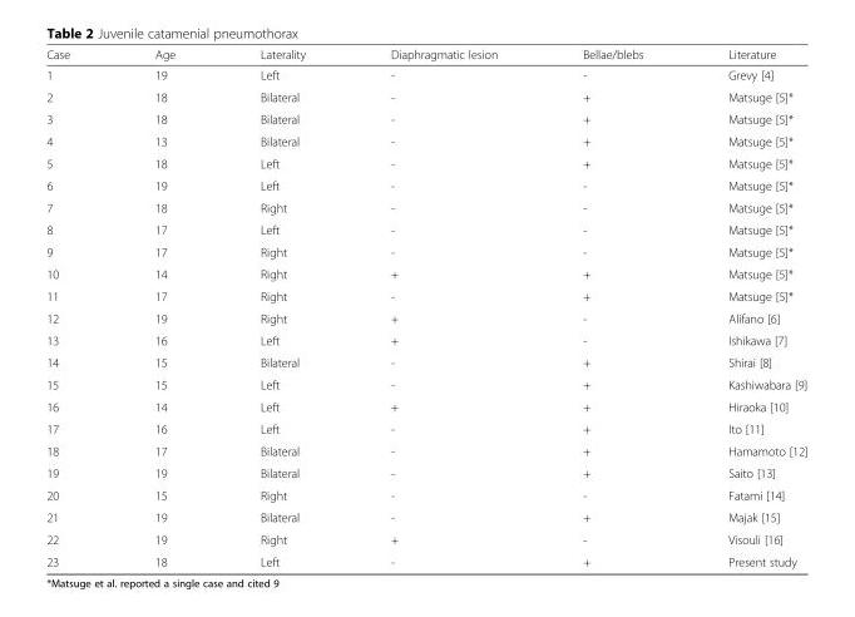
<table><thead><tr><td>Case</td><td>Age</td><td>Laterality</td><td>Diaphragmatic lesion</td><td>Bellae/blebs</td><td>Literature</td></tr></thead><tbody><tr><td>1</td><td>19</td><td>Left</td><td>-</td><td>-</td><td>Grevy [4]</td></tr><tr><td>2</td><td>18</td><td>Bilateral</td><td>-</td><td>+</td><td>Matsuge [5]*</td></tr><tr><td>3</td><td>18</td><td>Bilateral</td><td>-</td><td>+</td><td>Matsuge [5]*</td></tr><tr><td>4</td><td>13</td><td>Bilateral</td><td>-</td><td>+</td><td>Matsuge [5]*</td></tr><tr><td>5</td><td>18</td><td>Left</td><td>-</td><td>+</td><td>Matsuge [5]*</td></tr><tr><td>6</td><td>19</td><td>Left</td><td>-</td><td>-</td><td>Matsuge [5]*</td></tr><tr><td>7</td><td>18</td><td>Right</td><td>-</td><td>-</td><td>Matsuge [5]*</td></tr><tr><td>8</td><td>17</td><td>Left</td><td>-</td><td>-</td><td>Matsuge [5]*</td></tr><tr><td>9</td><td>17</td><td>Right</td><td>-</td><td>-</td><td>Matsuge [5]*</td></tr><tr><td>10</td><td>14</td><td>Right</td><td>+</td><td>+</td><td>Matsuge [5]*</td></tr><tr><td>11</td><td>17</td><td>Right</td><td>-</td><td>+</td><td>Matsuge [5]*</td></tr><tr><td>12</td><td>19</td><td>Right</td><td>+</td><td>-</td><td>Alifano [6]</td></tr><tr><td>13</td><td>16</td><td>Left</td><td>+</td><td>-</td><td>Ishikawa [7]</td></tr><tr><td>14</td><td>15</td><td>Bilateral</td><td>-</td><td>+</td><td>Shirai [8]</td></tr><tr><td>15</td><td>15</td><td>Left</td><td>-</td><td>+</td><td>Kashiwabara [9]</td></tr><tr><td>16</td><td>14</td><td>Left</td><td>+</td><td>+</td><td>Hiraoka [10]</td></tr><tr><td>17</td><td>16</td><td>Left</td><td>-</td><td>+</td><td>Ito [11]</td></tr><tr><td>18</td><td>17</td><td>Bilateral</td><td>-</td><td>+</td><td>Hamamoto [12]</td></tr><tr><td>19</td><td>19</td><td>Bilateral</td><td>-</td><td>+</td><td>Saito [13]</td></tr><tr><td>20</td><td>15</td><td>Right</td><td>-</td><td>-</td><td>Fatami [14]</td></tr><tr><td>21</td><td>19</td><td>Bilateral</td><td>-</td><td>+</td><td>Majak [15]</td></tr><tr><td>22</td><td>19</td><td>Right</td><td>+</td><td>-</td><td>Visouli [16]</td></tr><tr><td>23</td><td>18</td><td>Left</td><td>-</td><td>+</td><td>Present study</td></tr></tbody></table>